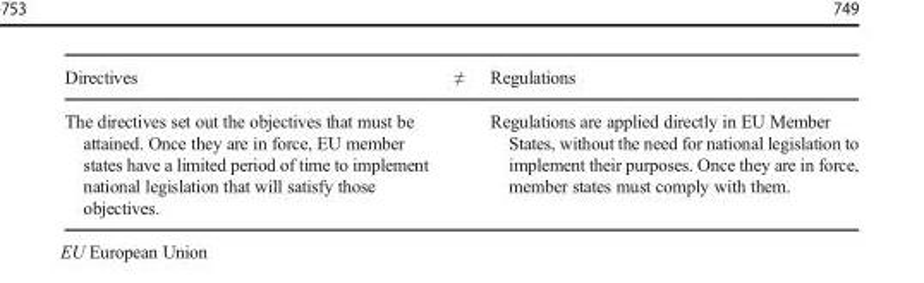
<table><thead><tr><td>Directives</td><td>≠</td><td>Regulations</td></tr></thead><tbody><tr><td>The directives set out the objectives that must be attained. Once they are in force, EU member states have a limited period of time to implement national legislation that will satisfy those objectives.</td><td></td><td>Regulations are applied directly in EU Member States, without the need for national legislation to implement their purposes. Once they are in force, member states must comply with them.</td></tr></tbody></table>